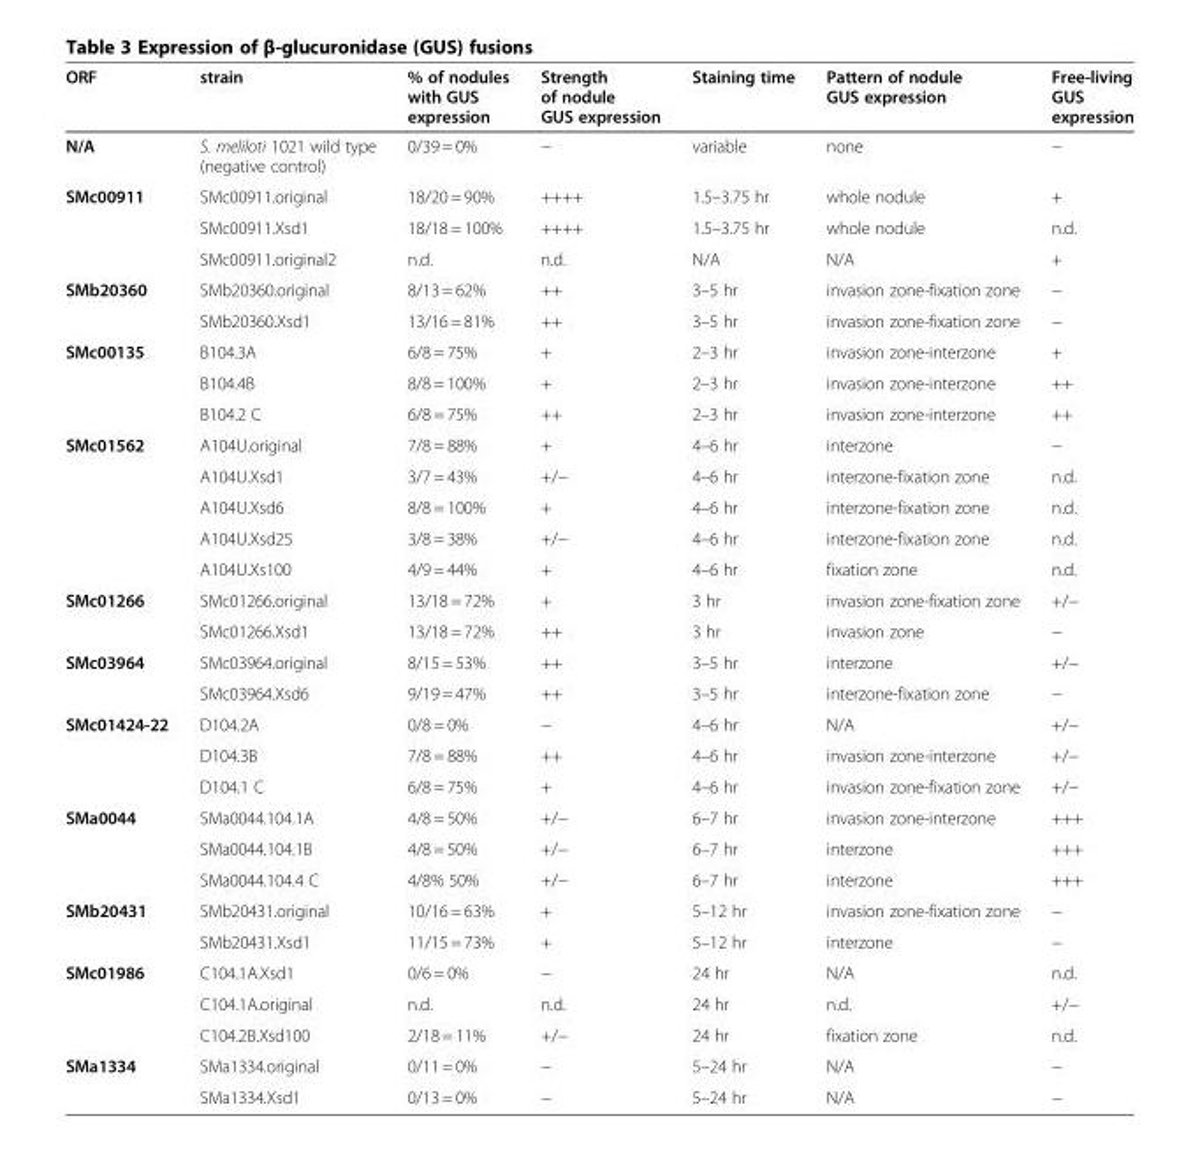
<table><thead><tr><td>ORF</td><td>strain</td><td>% of nodules with GUS expression</td><td>Strength of nodule GUS expression</td><td>Staining time</td><td>Pattern of nodule GUS expression</td><td>Free-living GUS expression</td></tr></thead><tbody><tr><td>N/A</td><td>S. meliloti 1021 wild type (negative control)</td><td>0/39 = 0%</td><td>−</td><td>variable</td><td>none</td><td>−</td></tr><tr><td rowspan="3">SMc00911</td><td>SMc00911.original</td><td>18/20 = 90%</td><td>++++</td><td>1.5–3.75 hr</td><td>whole nodule</td><td>+</td></tr><tr><td>SMc00911.Xsd1</td><td>18/18 = 100%</td><td>++++</td><td>1.5–3.75 hr</td><td>whole nodule</td><td>n.d.</td></tr><tr><td>SMc00911.original2</td><td>n.d.</td><td>n.d.</td><td>N/A</td><td>N/A</td><td>+</td></tr><tr><td rowspan="2">SMb20360</td><td>SMb20360.original</td><td>8/13 = 62%</td><td>++</td><td>3–5 hr</td><td>invasion zone-fixation zone</td><td>−</td></tr><tr><td>SMb20360.Xsd1</td><td>13/16 = 81%</td><td>++</td><td>3–5 hr</td><td>invasion zone-fixation zone</td><td>−</td></tr><tr><td rowspan="3">SMc00135</td><td>B104.3A</td><td>6/8 = 75%</td><td>+</td><td>2–3 hr</td><td>invasion zone-interzone</td><td>+</td></tr><tr><td>B104.4B</td><td>8/8 = 100%</td><td>+</td><td>2–3 hr</td><td>invasion zone-interzone</td><td>++</td></tr><tr><td>B104.2 C</td><td>6/8 = 75%</td><td>++</td><td>2–3 hr</td><td>invasion zone-interzone</td><td>++</td></tr><tr><td rowspan="5">SMc01562</td><td>A104U.original</td><td>7/8 = 88%</td><td>+</td><td>4–6 hr</td><td>interzone</td><td>−</td></tr><tr><td>A104U.Xsd1</td><td>3/7 = 43%</td><td>+/−</td><td>4–6 hr</td><td>interzone-fixation zone</td><td>n.d.</td></tr><tr><td>A104U.Xsd6</td><td>8/8 = 100%</td><td>+</td><td>4–6 hr</td><td>interzone-fixation zone</td><td>n.d.</td></tr><tr><td>A104U.Xsd25</td><td>3/8 = 38%</td><td>+/−</td><td>4–6 hr</td><td>interzone-fixation zone</td><td>n.d.</td></tr><tr><td>A104U.Xs100</td><td>4/9 = 44%</td><td>+</td><td>4–6 hr</td><td>fixation zone</td><td>n.d.</td></tr><tr><td rowspan="2">SMc01266</td><td>SMc01266.original</td><td>13/18 = 72%</td><td>+</td><td>3 hr</td><td>invasion zone-fixation zone</td><td>+/−</td></tr><tr><td>SMc01266.Xsd1</td><td>13/18 = 72%</td><td>++</td><td>3 hr</td><td>invasion zone</td><td>−</td></tr><tr><td rowspan="2">SMc03964</td><td>SMc03964.original</td><td>8/15 = 53%</td><td>++</td><td>3–5 hr</td><td>interzone</td><td>+/−</td></tr><tr><td>SMc03964.Xsd6</td><td>9/19 = 47%</td><td>++</td><td>3–5 hr</td><td>interzone-fixation zone</td><td>−</td></tr><tr><td rowspan="3">SMc01424-22</td><td>D104.2A</td><td>0/8 = 0%</td><td>−</td><td>4–6 hr</td><td>N/A</td><td>+/−</td></tr><tr><td>D104.3B</td><td>7/8 = 88%</td><td>++</td><td>4–6 hr</td><td>invasion zone-interzone</td><td>+/−</td></tr><tr><td>D104.1 C</td><td>6/8 = 75%</td><td>+</td><td>4–6 hr</td><td>invasion zone-fixation zone</td><td>+/−</td></tr><tr><td rowspan="3">SMa0044</td><td>SMa0044.104.1A</td><td>4/8 = 50%</td><td>+/−</td><td>6–7 hr</td><td>invasion zone-interzone</td><td>+++</td></tr><tr><td>SMa0044.104.1B</td><td>4/8 = 50%</td><td>+/−</td><td>6–7 hr</td><td>interzone</td><td>+++</td></tr><tr><td>SMa0044.104.4 C</td><td>4/8% 50%</td><td>+/−</td><td>6–7 hr</td><td>interzone</td><td>+++</td></tr><tr><td rowspan="2">SMb20431</td><td>SMb20431.original</td><td>10/16 = 63%</td><td>+</td><td>5–12 hr</td><td>invasion zone-fixation zone</td><td>−</td></tr><tr><td>SMb20431.Xsd1</td><td>11/15 = 73%</td><td>+</td><td>5–12 hr</td><td>interzone</td><td>−</td></tr><tr><td rowspan="3">SMc01986</td><td>C104.1A.Xsd1</td><td>0/6 = 0%</td><td>−</td><td>24 hr</td><td>N/A</td><td>n.d.</td></tr><tr><td>C104.1A.original</td><td>n.d.</td><td>n.d.</td><td>24 hr</td><td>n.d.</td><td>+/−</td></tr><tr><td>C104.2B.Xsd100</td><td>2/18 = 11%</td><td>+/−</td><td>24 hr</td><td>fixation zone</td><td>n.d.</td></tr><tr><td rowspan="2">SMa1334</td><td>SMa1334.original</td><td>0/11 = 0%</td><td>−</td><td>5–24 hr</td><td>N/A</td><td>−</td></tr><tr><td>SMa1334.Xsd1</td><td>0/13 = 0%</td><td>−</td><td>5–24 hr</td><td>N/A</td><td>−</td></tr></tbody></table>